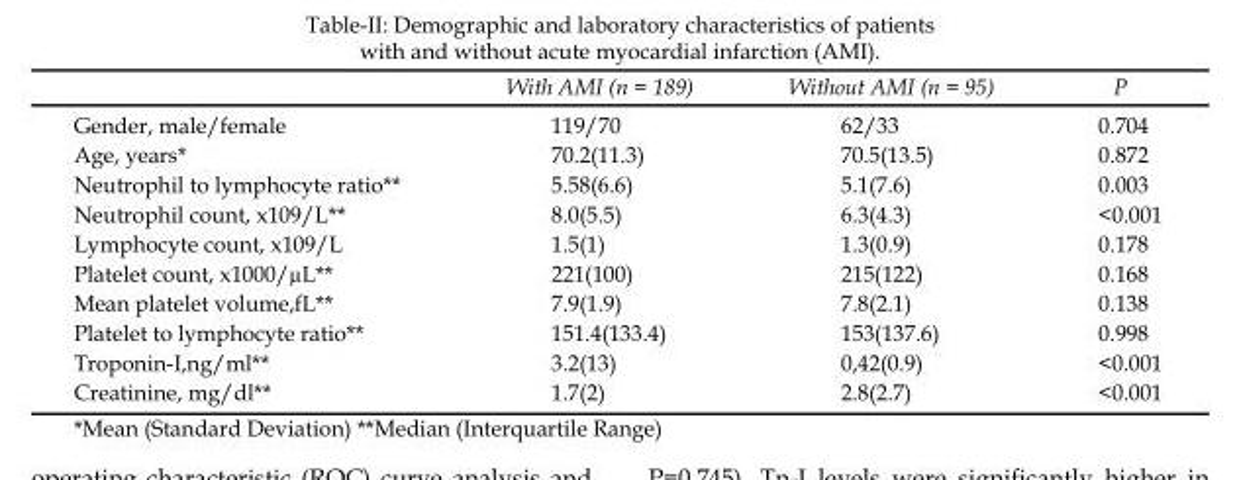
<table><thead><tr><td></td><td>With AMI (n = 189)</td><td>Without AMI (n = 95)</td><td>P</td></tr></thead><tbody><tr><td>Gender, male/female</td><td>119/70</td><td>62/33</td><td>0.704</td></tr><tr><td>Age, years*</td><td>70.2(11.3)</td><td>70.5(13.5)</td><td>0.872</td></tr><tr><td>Neutrophil to lymphocyte ratio**</td><td>5.58(6.6)</td><td>5.1(7.6)</td><td>0.003</td></tr><tr><td>Neutrophil count, x109/L**</td><td>8.0(5.5)</td><td>6.3(4.3)</td><td>&lt;0.001</td></tr><tr><td>Lymphocyte count, x109/L</td><td>1.5(1)</td><td>1.3(0.9)</td><td>0.178</td></tr><tr><td>Platelet count, x1000/µL**</td><td>221(100)</td><td>215(122)</td><td>0.168</td></tr><tr><td>Mean platelet volume,fL**</td><td>7.9(1.9)</td><td>7.8(2.1)</td><td>0.138</td></tr><tr><td>Platelet to lymphocyte ratio**</td><td>151.4(133.4)</td><td>153(137.6)</td><td>0.998</td></tr><tr><td>Troponin-I,ng/ml**</td><td>3.2(13)</td><td>0,42(0.9)</td><td>&lt;0.001</td></tr><tr><td>Creatinine, mg/dl**</td><td>1.7(2)</td><td>2.8(2.7)</td><td>&lt;0.001</td></tr></tbody></table>